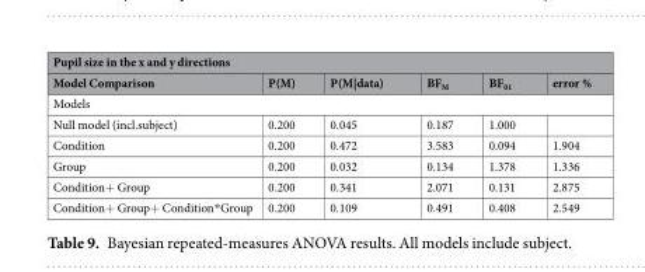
<table><thead><tr><td colspan="6">Pupil size in the x and y directions</td></tr><tr><td>Model Comparison</td><td>P(M)</td><td>P(M|data)</td><td>BF<sub>M</sub></td><td>BF<sub>01</sub></td><td>error %</td></tr></thead><tbody><tr><td colspan="6">Models</td></tr><tr><td>Null model (incl.subject)</td><td>0.200</td><td>0.045</td><td>0.187</td><td>1.000</td><td></td></tr><tr><td>Condition</td><td>0.200</td><td>0.472</td><td>3.583</td><td>0.094</td><td>1.904</td></tr><tr><td>Group</td><td>0.200</td><td>0.032</td><td>0.134</td><td>1.378</td><td>1.336</td></tr><tr><td>Condition+ Group</td><td>0.200</td><td>0.341</td><td>2.071</td><td>0.131</td><td>2.875</td></tr><tr><td>Condition+ Group+ Condition*Group</td><td>0.200</td><td>0.109</td><td>0.491</td><td>0.408</td><td>2.549</td></tr></tbody></table>